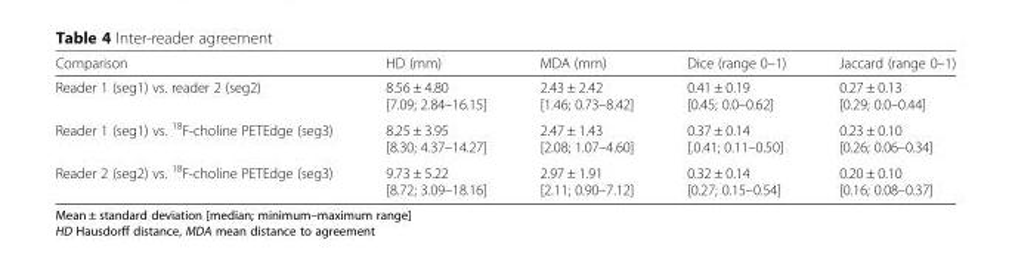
<table><thead><tr><td>Comparison</td><td>HD (mm)</td><td>MDA (mm)</td><td>Dice (range 0–1)</td><td>Jaccard (range 0–1)</td></tr></thead><tbody><tr><td>Reader 1 (seg1) vs. reader 2 (seg2)</td><td>8.56 ± 4.80 [7.09; 2.84–16.15]</td><td>2.43 ± 2.42 [1.46; 0.73–8.42]</td><td>0.41 ± 0.19 [0.45; 0.0–0.62]</td><td>0.27 ± 0.13 [0.29; 0.0–0.44]</td></tr><tr><td>Reader 1 (seg1) vs. <sup>18</sup>F-choline PETEdge (seg3)</td><td>8.25 ± 3.95 [8.30; 4.37–14.27]</td><td>2.47 ± 1.43 [2.08; 1.07–4.60]</td><td>0.37 ± 0.14 [.0.41; 0.11–0.50]</td><td>0.23 ± 0.10 [0.26; 0.06–0.34]</td></tr><tr><td>Reader 2 (seg2) vs. <sup>18</sup>F-choline PETEdge (seg3)</td><td>9.73 ± 5.22 [8.72; 3.09–18.16]</td><td>2.97 ± 1.91 [2.11; 0.90–7.12]</td><td>0.32 ± 0.14 [0.27; 0.15–0.54]</td><td>0.20 ± 0.10 [0.16; 0.08–0.37]</td></tr></tbody></table>